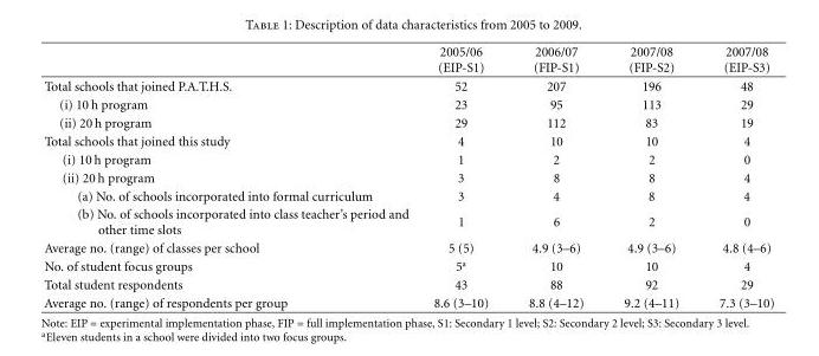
<table><thead><tr><td></td><td>2005/06 (EIP-S1)</td><td>2006/07 (FIP-S1)</td><td>2007/08 (FIP-S2)</td><td>2007/08 (EIP-S3)</td></tr></thead><tbody><tr><td>Total schools that joined P.A.T.H.S.</td><td>52</td><td>207</td><td>196</td><td>48</td></tr><tr><td>(i) 10 h program</td><td>23</td><td>95</td><td>113</td><td>29</td></tr><tr><td>(ii) 20 h program</td><td>29</td><td>112</td><td>83</td><td>19</td></tr><tr><td>Total schools that joined this study</td><td>4</td><td>10</td><td>10</td><td>4</td></tr><tr><td>(i) 10 h program</td><td>1</td><td>2</td><td>2</td><td>0</td></tr><tr><td>(ii) 20 h program</td><td>3</td><td>8</td><td>8</td><td>4</td></tr><tr><td>(a) No. of schools incorporated into formal curriculum</td><td>3</td><td>4</td><td>8</td><td>4</td></tr><tr><td>(b) No. of schools incorporated into class teacher’s period and other time slots</td><td>1</td><td>6</td><td>2</td><td>0</td></tr><tr><td>Average no. (range) of classes per school</td><td>5 (5)</td><td>4.9 (3–6)</td><td>4.9 (3–6)</td><td>4.8 (4–6)</td></tr><tr><td>No. of student focus groups</td><td>5<sup>a</sup></td><td>10</td><td>10</td><td>4</td></tr><tr><td>Total student respondents</td><td>43</td><td>88</td><td>92</td><td>29</td></tr><tr><td>Average no. (range) of respondents per group</td><td>8.6 (3–10)</td><td>8.8 (4–12)</td><td>9.2 (4–11)</td><td>7.3 (3–10)</td></tr></tbody></table>